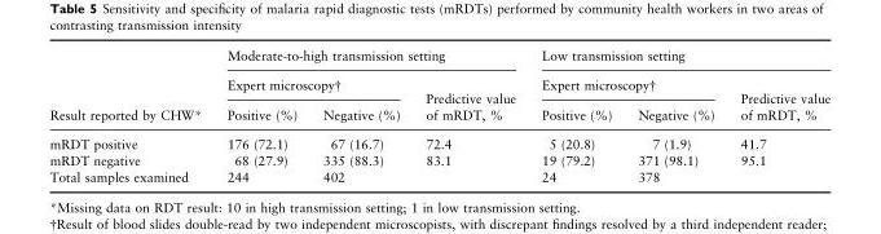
<table><thead><tr><td rowspan="3">Result reported by CHW*</td><td colspan="3">Moderate-to-high transmission setting</td><td colspan="3">Low transmission setting</td></tr><tr><td colspan="2">Expert microscopy†</td><td rowspan="2">Predictive value of mRDT, %</td><td colspan="2">Expert microscopy†</td><td rowspan="2">Predictive value of mRDT, %</td></tr><tr><td>Positive (%)</td><td>Negative (%)</td><td>Positive (%)</td><td>Negative (%)</td></tr></thead><tbody><tr><td>mRDT positive</td><td>176 (72.1)</td><td>67 (16.7)</td><td>72.4</td><td>5 (20.8)</td><td>7 (1.9)</td><td>41.7</td></tr><tr><td>mRDT negative</td><td>68 (27.9)</td><td>335 (88.3)</td><td>83.1</td><td>19 (79.2)</td><td>371 (98.1)</td><td>95.1</td></tr><tr><td>Total samples examined</td><td>244</td><td>402</td><td></td><td>24</td><td>378</td><td></td></tr></tbody></table>